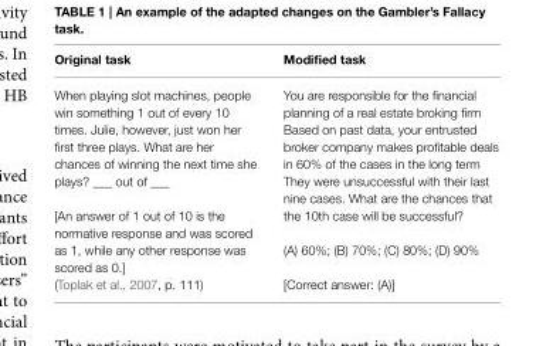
<table><thead><tr><td>Original task</td><td>Modified task</td></tr></thead><tbody><tr><td>When playing slot machines, people win something 1 out of every 10 times. Julie, however, just won her first three plays. What are her chances of winning the next time she plays? ___ out of ___ [An answer of 1 out of 10 is the normative response and was scored as 1, while any other response was scored as 0.] (Toplak et al., 2007, p. 111)</td><td>You are responsible for the financial planning of a real estate broking firm Based on past data, your entrusted broker company makes profitable deals in 60% of the cases in the long term They were unsuccessful with their last nine cases. What are the chances that the 10th case will be successful? (A) 60%; (B) 70%; (C) 80%; (D) 90% [Correct answer: (A)]</td></tr></tbody></table>